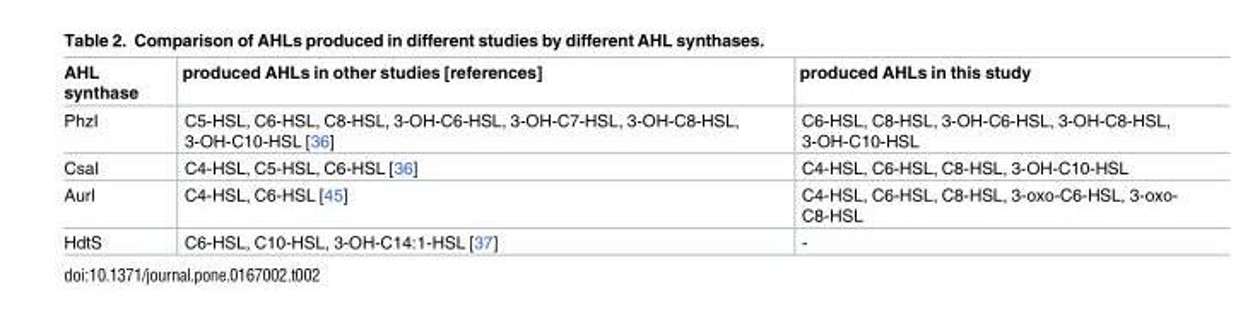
<table><thead><tr><td>AHL synthase</td><td>produced AHLs in other studies [references]</td><td>produced AHLs in this study</td></tr></thead><tbody><tr><td>PhzI</td><td>C5-HSL, C6-HSL, C8-HSL, 3-OH-C6-HSL, 3-OH-C7-HSL, 3-OH-C8-HSL, 3-OH-C10-HSL [36]</td><td>C6-HSL, C8-HSL, 3-OH-C6-HSL, 3-OH-C8-HSL, 3-OH-C10-HSL</td></tr><tr><td>CsaI</td><td>C4-HSL, C5-HSL, C6-HSL [36]</td><td>C4-HSL, C6-HSL, C8-HSL, 3-OH-C10-HSL</td></tr><tr><td>AurI</td><td>C4-HSL, C6-HSL [45]</td><td>C4-HSL, C6-HSL, C8-HSL, 3-oxo-C6-HSL, 3-oxo- C8-HSL</td></tr><tr><td>HdtS</td><td>C6-HSL, C10-HSL, 3-OH-C14:1-HSL [37]</td><td>-</td></tr></tbody></table>